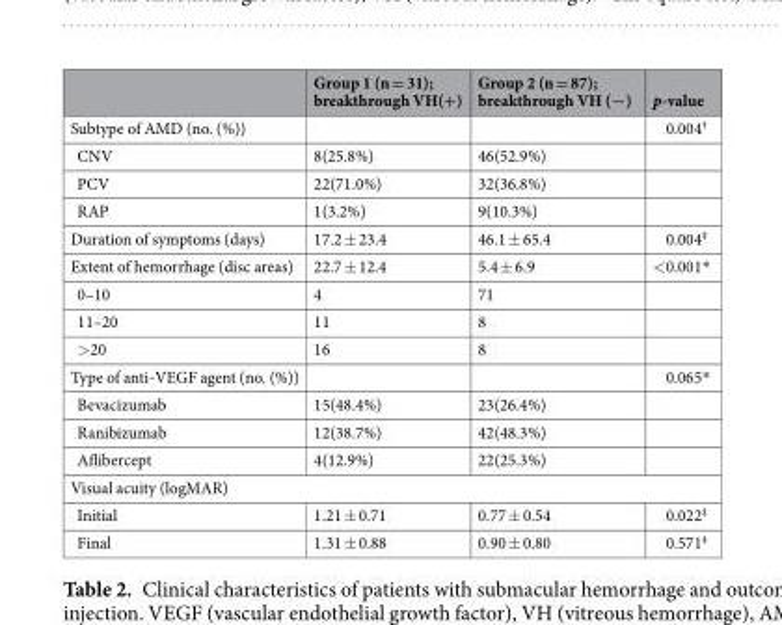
<table><thead><tr><td></td><td>Group 1 (n = 31); breakthrough VH(+)</td><td>Group 2 (n = 87); breakthrough VH (−)</td><td>p-value</td></tr></thead><tbody><tr><td>Subtype of AMD (no. (%))</td><td></td><td></td><td>0.004<sup>†</sup></td></tr><tr><td>CNV</td><td>8(25.8%)</td><td>46(52.9%)</td><td></td></tr><tr><td>PCV</td><td>22(71.0%)</td><td>32(36.8%)</td><td></td></tr><tr><td>RAP</td><td>1(3.2%)</td><td>9(10.3%)</td><td></td></tr><tr><td>Duration of symptoms (days)</td><td>17.2 ± 23.4</td><td>46.1 ± 65.4</td><td>0.004<sup>‡</sup></td></tr><tr><td>Extent of hemorrhage (disc areas)</td><td>22.7 ± 12.4</td><td>5.4 ± 6.9</td><td>&lt;0.001*</td></tr><tr><td>0–10</td><td>4</td><td>71</td><td></td></tr><tr><td>11–20</td><td>11</td><td>8</td><td></td></tr><tr><td>&gt;20</td><td>16</td><td>8</td><td></td></tr><tr><td>Type of anti-VEGF agent (no. (%))</td><td></td><td></td><td>0.065*</td></tr><tr><td>Bevacizumab</td><td>15(48.4%)</td><td>23(26.4%)</td><td></td></tr><tr><td>Ranibizumab</td><td>12(38.7%)</td><td>42(48.3%)</td><td></td></tr><tr><td>Aflibercept</td><td>4(12.9%)</td><td>22(25.3%)</td><td></td></tr><tr><td colspan="4">Visual acuity (logMAR)</td></tr><tr><td>Initial</td><td>1.21 ± 0.71</td><td>0.77 ± 0.54</td><td>0.022<sup>‡</sup></td></tr><tr><td>Final</td><td>1.31 ± 0.88</td><td>0.90 ± 0.80</td><td>0.571<sup>‡</sup></td></tr></tbody></table>